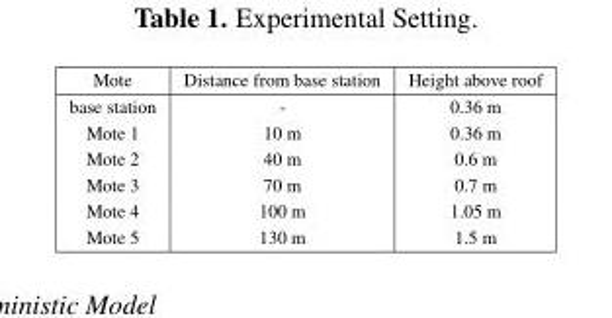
<table><thead><tr><td>Mote</td><td>Distance from base station</td><td>Height above roof</td></tr></thead><tbody><tr><td>base station</td><td>-</td><td>0.36 m</td></tr><tr><td>Mote 1</td><td>10 m</td><td>0.36 m</td></tr><tr><td>Mote 2</td><td>40 m</td><td>0.6 m</td></tr><tr><td>Mote 3</td><td>70 m</td><td>0.7 m</td></tr><tr><td>Mote 4</td><td>100 m</td><td>1.05 m</td></tr><tr><td>Mote 5</td><td>130 m</td><td>1.5 m</td></tr></tbody></table>